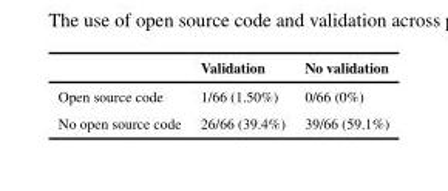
<table><thead><tr><td></td><td>Validation</td><td>No validation</td></tr></thead><tbody><tr><td>Open source code</td><td>1/66 (1.50%)</td><td>0/66 (0%)</td></tr><tr><td>No open source code</td><td>26/66 (39.4%)</td><td>39/66 (59.1%)</td></tr></tbody></table>